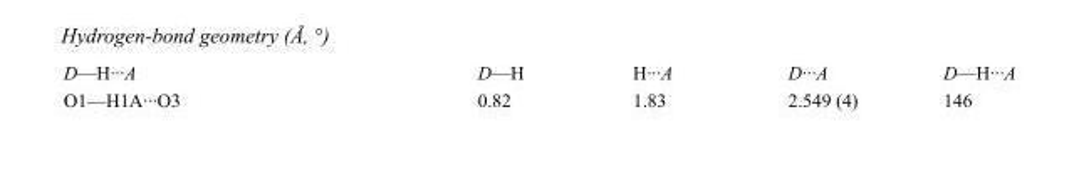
<table><tbody><tr><td>D—H···A</td><td>D—H</td><td>H···A</td><td>D···A</td><td>D—H···A</td></tr><tr><td>O1—H1A···O3</td><td>0.82</td><td>1.83</td><td>2.549 (4)</td><td>146</td></tr></tbody></table>